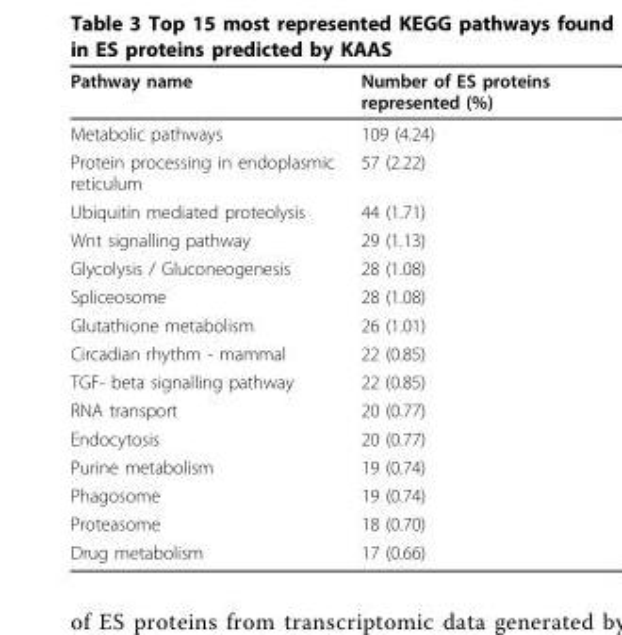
<table><thead><tr><td>Pathway name</td><td>Number of ES proteins represented (%)</td></tr></thead><tbody><tr><td>Metabolic pathways</td><td>109 (4.24)</td></tr><tr><td>Protein processing in endoplasmic reticulum</td><td>57 (2.22)</td></tr><tr><td>Ubiquitin mediated proteolysis</td><td>44 (1.71)</td></tr><tr><td>Wnt signalling pathway</td><td>29 (1.13)</td></tr><tr><td>Glycolysis / Gluconeogenesis</td><td>28 (1.08)</td></tr><tr><td>Spliceosome</td><td>28 (1.08)</td></tr><tr><td>Glutathione metabolism</td><td>26 (1.01)</td></tr><tr><td>Circadian rhythm - mammal</td><td>22 (0.85)</td></tr><tr><td>TGF- beta signalling pathway</td><td>22 (0.85)</td></tr><tr><td>RNA transport</td><td>20 (0.77)</td></tr><tr><td>Endocytosis</td><td>20 (0.77)</td></tr><tr><td>Purine metabolism</td><td>19 (0.74)</td></tr><tr><td>Phagosome</td><td>19 (0.74)</td></tr><tr><td>Proteasome</td><td>18 (0.70)</td></tr><tr><td>Drug metabolism</td><td>17 (0.66)</td></tr></tbody></table>